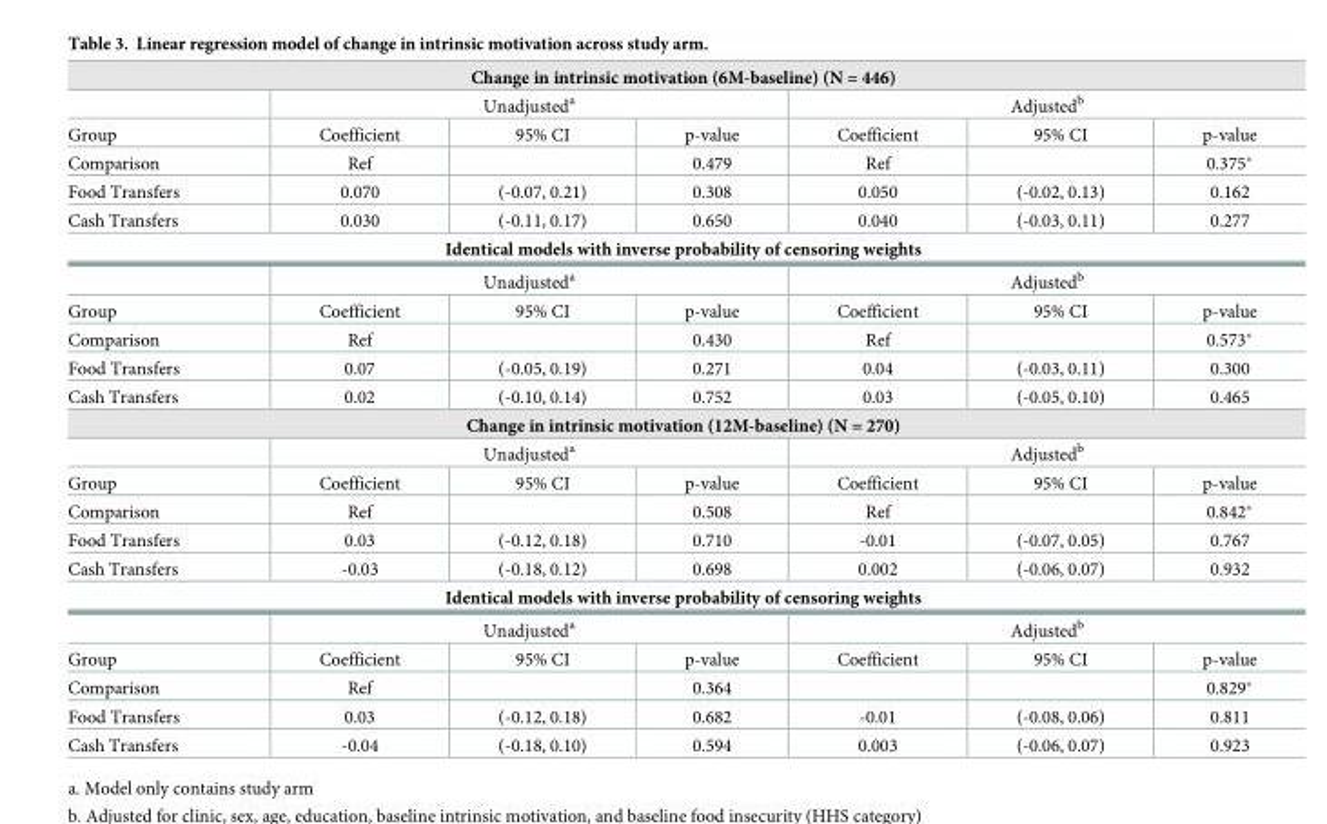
<table><tbody><tr><td colspan="7">Change in intrinsic motivation (6M-baseline) (N = 446)</td></tr><tr><td></td><td colspan="3">Unadjusted<sup>a</sup></td><td colspan="3">Adjusted<sup>b</sup></td></tr><tr><td>Group</td><td>Coefficient</td><td>95% CI</td><td>p-value</td><td>Coefficient</td><td>95% CI</td><td>p-value</td></tr><tr><td>Comparison</td><td>Ref</td><td></td><td>0.479</td><td>Ref</td><td></td><td>0.375*</td></tr><tr><td>Food Transfers</td><td>0.070</td><td>(-0.07, 0.21)</td><td>0.308</td><td>0.050</td><td>(-0.02, 0.13)</td><td>0.162</td></tr><tr><td>Cash Transfers</td><td>0.030</td><td>(-0.11, 0.17)</td><td>0.650</td><td>0.040</td><td>(-0.03, 0.11)</td><td>0.277</td></tr><tr><td colspan="7">Identical models with inverse probability of censoring weights</td></tr><tr><td></td><td colspan="3">Unadjusted<sup>a</sup></td><td colspan="3">Adjusted<sup>b</sup></td></tr><tr><td>Group</td><td>Coefficient</td><td>95% CI</td><td>p-value</td><td>Coefficient</td><td>95% CI</td><td>p-value</td></tr><tr><td>Comparison</td><td>Ref</td><td></td><td>0.430</td><td>Ref</td><td></td><td>0.573*</td></tr><tr><td>Food Transfers</td><td>0.07</td><td>(-0.05, 0.19)</td><td>0.271</td><td>0.04</td><td>(-0.03, 0.11)</td><td>0.300</td></tr><tr><td>Cash Transfers</td><td>0.02</td><td>(-0.10, 0.14)</td><td>0.752</td><td>0.03</td><td>(-0.05, 0.10)</td><td>0.465</td></tr><tr><td colspan="7">Change in intrinsic motivation (12M-baseline) (N = 270)</td></tr><tr><td></td><td colspan="3">Unadjusted<sup>a</sup></td><td colspan="3">Adjusted<sup>b</sup></td></tr><tr><td>Group</td><td>Coefficient</td><td>95% CI</td><td>p-value</td><td>Coefficient</td><td>95% CI</td><td>p-value</td></tr><tr><td>Comparison</td><td>Ref</td><td></td><td>0.508</td><td>Ref</td><td></td><td>0.842*</td></tr><tr><td>Food Transfers</td><td>0.03</td><td>(-0.12, 0.18)</td><td>0.710</td><td>-0.01</td><td>(-0.07, 0.05)</td><td>0.767</td></tr><tr><td>Cash Transfers</td><td>-0.03</td><td>(-0.18, 0.12)</td><td>0.698</td><td>0.002</td><td>(-0.06, 0.07)</td><td>0.932</td></tr><tr><td colspan="7">Identical models with inverse probability of censoring weights</td></tr><tr><td></td><td colspan="3">Unadjusted<sup>a</sup></td><td colspan="3">Adjusted<sup>b</sup></td></tr><tr><td>Group</td><td>Coefficient</td><td>95% CI</td><td>p-value</td><td>Coefficient</td><td>95% CI</td><td>p-value</td></tr><tr><td>Comparison</td><td>Ref</td><td></td><td>0.364</td><td></td><td></td><td>0.829*</td></tr><tr><td>Food Transfers</td><td>0.03</td><td>(-0.12, 0.18)</td><td>0.682</td><td>-0.01</td><td>(-0.08, 0.06)</td><td>0.811</td></tr><tr><td>Cash Transfers</td><td>-0.04</td><td>(-0.18, 0.10)</td><td>0.594</td><td>0.003</td><td>(-0.06, 0.07)</td><td>0.923</td></tr></tbody></table>